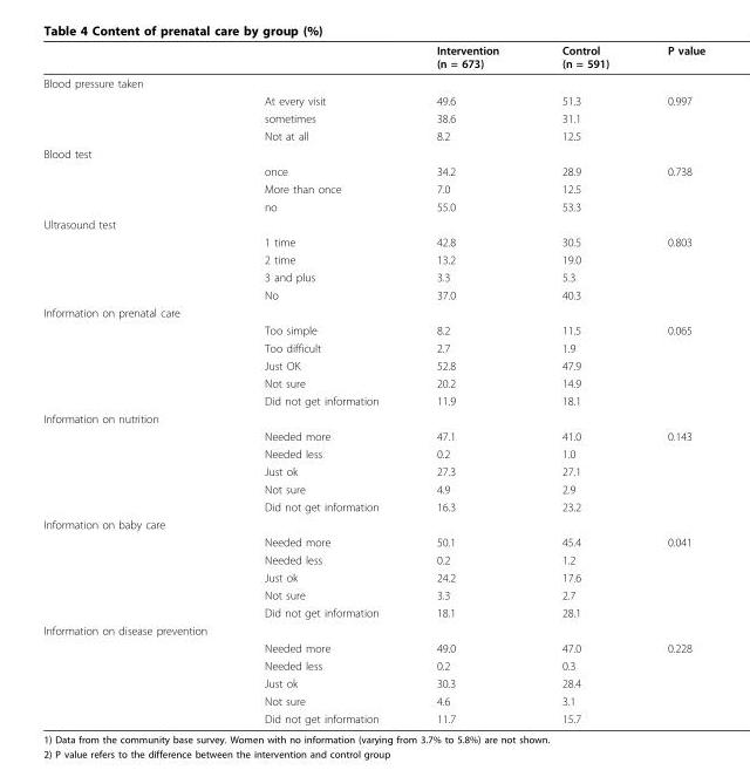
<table><thead><tr><td></td><td></td><td>Intervention (n = 673)</td><td>Control (n = 591)</td><td>P value</td></tr></thead><tbody><tr><td colspan="5">Blood pressure taken</td></tr><tr><td></td><td>At every visit</td><td>49.6</td><td>51.3</td><td>0.997</td></tr><tr><td></td><td>sometimes</td><td>38.6</td><td>31.1</td><td></td></tr><tr><td></td><td>Not at all</td><td>8.2</td><td>12.5</td><td></td></tr><tr><td colspan="5">Blood test</td></tr><tr><td></td><td>once</td><td>34.2</td><td>28.9</td><td>0.738</td></tr><tr><td></td><td>More than once</td><td>7.0</td><td>12.5</td><td></td></tr><tr><td></td><td>no</td><td>55.0</td><td>53.3</td><td></td></tr><tr><td colspan="5">Ultrasound test</td></tr><tr><td></td><td>1 time</td><td>42.8</td><td>30.5</td><td>0.803</td></tr><tr><td></td><td>2 time</td><td>13.2</td><td>19.0</td><td></td></tr><tr><td></td><td>3 and plus</td><td>3.3</td><td>5.3</td><td></td></tr><tr><td></td><td>No</td><td>37.0</td><td>40.3</td><td></td></tr><tr><td colspan="5">Information on prenatal care</td></tr><tr><td></td><td>Too simple</td><td>8.2</td><td>11.5</td><td>0.065</td></tr><tr><td></td><td>Too difficult</td><td>2.7</td><td>1.9</td><td></td></tr><tr><td></td><td>Just OK</td><td>52.8</td><td>47.9</td><td></td></tr><tr><td></td><td>Not sure</td><td>20.2</td><td>14.9</td><td></td></tr><tr><td></td><td>Did not get information</td><td>11.9</td><td>18.1</td><td></td></tr><tr><td colspan="5">Information on nutrition</td></tr><tr><td></td><td>Needed more</td><td>47.1</td><td>41.0</td><td>0.143</td></tr><tr><td></td><td>Needed less</td><td>0.2</td><td>1.0</td><td></td></tr><tr><td></td><td>Just ok</td><td>27.3</td><td>27.1</td><td></td></tr><tr><td></td><td>Not sure</td><td>4.9</td><td>2.9</td><td></td></tr><tr><td></td><td>Did not get information</td><td>16.3</td><td>23.2</td><td></td></tr><tr><td colspan="5">Information on baby care</td></tr><tr><td></td><td>Needed more</td><td>50.1</td><td>45.4</td><td>0.041</td></tr><tr><td></td><td>Needed less</td><td>0.2</td><td>1.2</td><td></td></tr><tr><td></td><td>Just ok</td><td>24.2</td><td>17.6</td><td></td></tr><tr><td></td><td>Not sure</td><td>3.3</td><td>2.7</td><td></td></tr><tr><td></td><td>Did not get information</td><td>18.1</td><td>28.1</td><td></td></tr><tr><td colspan="5">Information on disease prevention</td></tr><tr><td></td><td>Needed more</td><td>49.0</td><td>47.0</td><td>0.228</td></tr><tr><td></td><td>Needed less</td><td>0.2</td><td>0.3</td><td></td></tr><tr><td></td><td>Just ok</td><td>30.3</td><td>28.4</td><td></td></tr><tr><td></td><td>Not sure</td><td>4.6</td><td>3.1</td><td></td></tr><tr><td></td><td>Did not get information</td><td>11.7</td><td>15.7</td><td></td></tr></tbody></table>